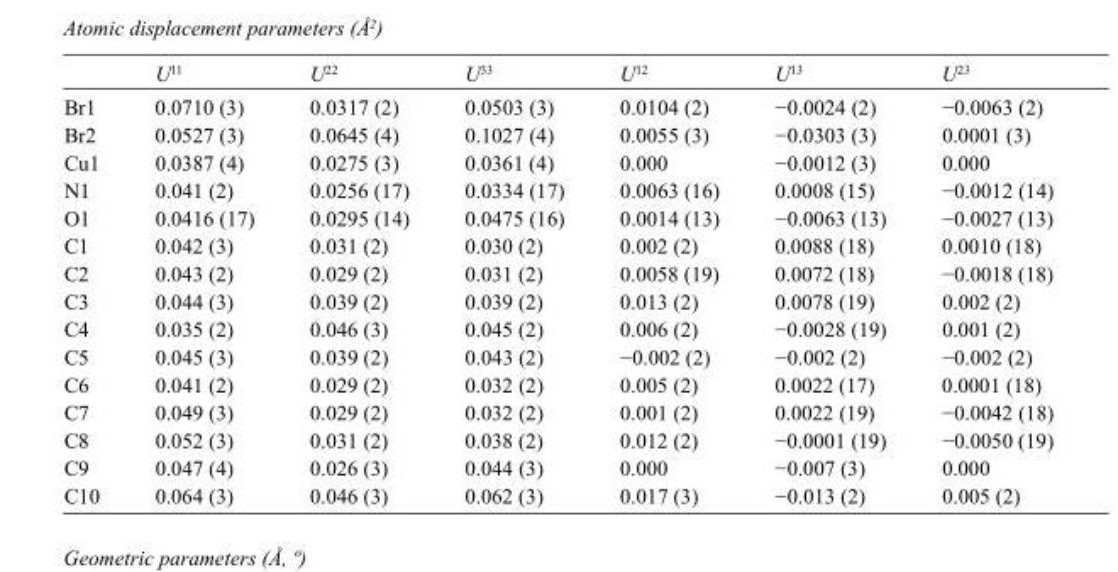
<table><thead><tr><td></td><td>U<sup>11</sup></td><td>U<sup>22</sup></td><td>U<sup>33</sup></td><td>U<sup>12</sup></td><td>U<sup>13</sup></td><td>U<sup>23</sup></td></tr></thead><tbody><tr><td>Br1</td><td>0.0710 (3)</td><td>0.0317 (2)</td><td>0.0503 (3)</td><td>0.0104 (2)</td><td>−0.0024 (2)</td><td>−0.0063 (2)</td></tr><tr><td>Br2</td><td>0.0527 (3)</td><td>0.0645 (4)</td><td>0.1027 (4)</td><td>0.0055 (3)</td><td>−0.0303 (3)</td><td>0.0001 (3)</td></tr><tr><td>Cu1</td><td>0.0387 (4)</td><td>0.0275 (3)</td><td>0.0361 (4)</td><td>0.000</td><td>−0.0012 (3)</td><td>0.000</td></tr><tr><td>N1</td><td>0.041 (2)</td><td>0.0256 (17)</td><td>0.0334 (17)</td><td>0.0063 (16)</td><td>0.0008 (15)</td><td>−0.0012 (14)</td></tr><tr><td>O1</td><td>0.0416 (17)</td><td>0.0295 (14)</td><td>0.0475 (16)</td><td>0.0014 (13)</td><td>−0.0063 (13)</td><td>−0.0027 (13)</td></tr><tr><td>C1</td><td>0.042 (3)</td><td>0.031 (2)</td><td>0.030 (2)</td><td>0.002 (2)</td><td>0.0088 (18)</td><td>0.0010 (18)</td></tr><tr><td>C2</td><td>0.043 (2)</td><td>0.029 (2)</td><td>0.031 (2)</td><td>0.0058 (19)</td><td>0.0072 (18)</td><td>−0.0018 (18)</td></tr><tr><td>C3</td><td>0.044 (3)</td><td>0.039 (2)</td><td>0.039 (2)</td><td>0.013 (2)</td><td>0.0078 (19)</td><td>0.002 (2)</td></tr><tr><td>C4</td><td>0.035 (2)</td><td>0.046 (3)</td><td>0.045 (2)</td><td>0.006 (2)</td><td>−0.0028 (19)</td><td>0.001 (2)</td></tr><tr><td>C5</td><td>0.045 (3)</td><td>0.039 (2)</td><td>0.043 (2)</td><td>−0.002 (2)</td><td>−0.002 (2)</td><td>−0.002 (2)</td></tr><tr><td>C6</td><td>0.041 (2)</td><td>0.029 (2)</td><td>0.032 (2)</td><td>0.005 (2)</td><td>0.0022 (17)</td><td>0.0001 (18)</td></tr><tr><td>C7</td><td>0.049 (3)</td><td>0.029 (2)</td><td>0.032 (2)</td><td>0.001 (2)</td><td>0.0022 (19)</td><td>−0.0042 (18)</td></tr><tr><td>C8</td><td>0.052 (3)</td><td>0.031 (2)</td><td>0.038 (2)</td><td>0.012 (2)</td><td>−0.0001 (19)</td><td>−0.0050 (19)</td></tr><tr><td>C9</td><td>0.047 (4)</td><td>0.026 (3)</td><td>0.044 (3)</td><td>0.000</td><td>−0.007 (3)</td><td>0.000</td></tr><tr><td>C10</td><td>0.064 (3)</td><td>0.046 (3)</td><td>0.062 (3)</td><td>0.017 (3)</td><td>−0.013 (2)</td><td>0.005 (2)</td></tr></tbody></table>